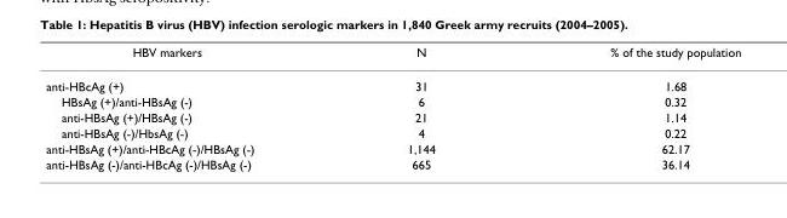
<table><thead><tr><td>HBV markers</td><td>N</td><td>% of the study population</td></tr></thead><tbody><tr><td>anti-HBcAg (+)</td><td>31</td><td>1.68</td></tr><tr><td>HBsAg (+)/anti-HBsAg (-)</td><td>6</td><td>0.32</td></tr><tr><td>anti-HBsAg (+)/HBsAg (-)</td><td>21</td><td>1.14</td></tr><tr><td>anti-HBsAg (-)/HbsAg (-)</td><td>4</td><td>0.22</td></tr><tr><td>anti-HBsAg (+)/anti-HBcAg (-)/HBsAg (-)</td><td>1,144</td><td>62.17</td></tr><tr><td>anti-HBsAg (-)/anti-HBcAg (-)/HBsAg (-)</td><td>665</td><td>36.14</td></tr></tbody></table>